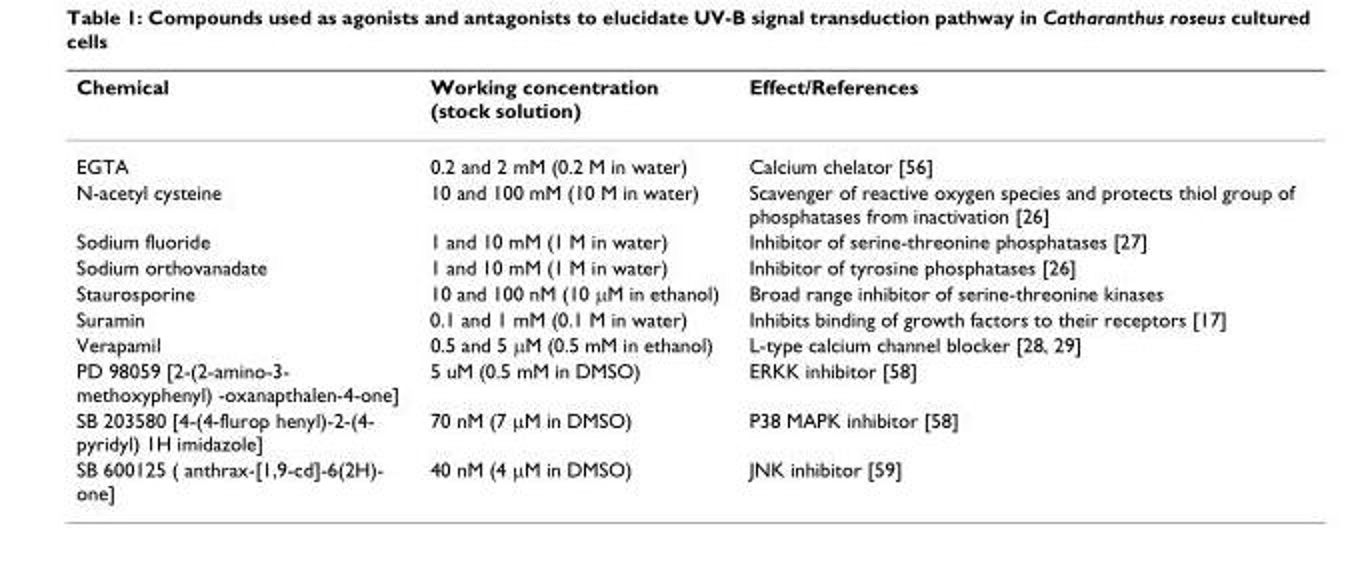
<table><thead><tr><td>Chemical</td><td>Working concentration (stock solution)</td><td>Effect/References</td></tr></thead><tbody><tr><td>EGTA</td><td>0.2 and 2 mM (0.2 M in water)</td><td>Calcium chelator [56]</td></tr><tr><td>N-acetyl cysteine</td><td>10 and 100 mM (10 M in water)</td><td>Scavenger of reactive oxygen species and protects thiol group of phosphatases from inactivation [26]</td></tr><tr><td>Sodium fluoride</td><td>1 and 10 mM (1 M in water)</td><td>Inhibitor of serine-threonine phosphatases [27]</td></tr><tr><td>Sodium orthovanadate</td><td>1 and 10 mM (1 M in water)</td><td>Inhibitor of tyrosine phosphatases [26]</td></tr><tr><td>Staurosporine</td><td>10 and 100 nM (10 µM in ethanol)</td><td>Broad range inhibitor of serine-threonine kinases</td></tr><tr><td>Suramin</td><td>0.1 and 1 mM (0.1 M in water)</td><td>Inhibits binding of growth factors to their receptors [17]</td></tr><tr><td>Verapamil</td><td>0.5 and 5 µM (0.5 mM in ethanol)</td><td>L-type calcium channel blocker [28, 29]</td></tr><tr><td>PD 98059 [2-(2-amino-3- methoxyphenyl) -oxanapthalen-4-one]</td><td>5 uM (0.5 mM in DMSO)</td><td>ERKK inhibitor [58]</td></tr><tr><td>SB 203580 [4-(4-flurop henyl)-2-(4- pyridyl) 1H imidazole]</td><td>70 nM (7 µM in DMSO)</td><td>P38 MAPK inhibitor [58]</td></tr><tr><td>SB 600125 ( anthrax-[1,9-cd]-6(2H)- one]</td><td>40 nM (4 µM in DMSO)</td><td>JNK inhibitor [59]</td></tr></tbody></table>